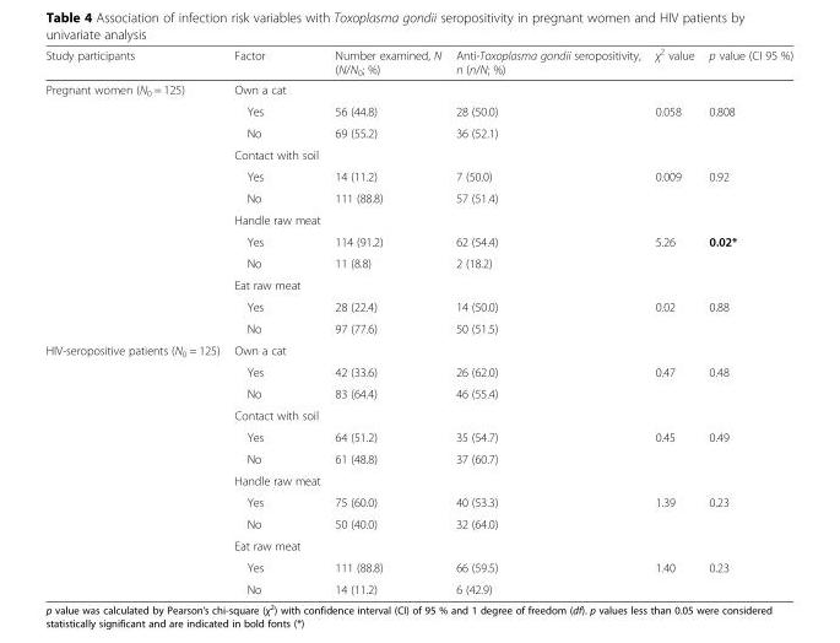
<table><thead><tr><td>Study participants</td><td>Factor</td><td>Number examined, N (N/N<sub>0</sub>; %)</td><td>Anti-Toxoplasma gondii seropositivity, n (n/N; %)</td><td>χ<sup>2</sup> value</td><td>p value (CI 95 %)</td></tr></thead><tbody><tr><td rowspan="12">Pregnant women (N<sub>0</sub> = 125)</td><td>Own a cat</td><td></td><td></td><td></td><td></td></tr><tr><td>Yes</td><td>56 (44.8)</td><td>28 (50.0)</td><td>0.058</td><td>0.808</td></tr><tr><td>No</td><td>69 (55.2)</td><td>36 (52.1)</td><td></td><td></td></tr><tr><td>Contact with soil</td><td></td><td></td><td></td><td></td></tr><tr><td>Yes</td><td>14 (11.2)</td><td>7 (50.0)</td><td>0.009</td><td>0.92</td></tr><tr><td>No</td><td>111 (88.8)</td><td>57 (51.4)</td><td></td><td></td></tr><tr><td>Handle raw meat</td><td></td><td></td><td></td><td></td></tr><tr><td>Yes</td><td>114 (91.2)</td><td>62 (54.4)</td><td>5.26</td><td>0.02*</td></tr><tr><td>No</td><td>11 (8.8)</td><td>2 (18.2)</td><td></td><td></td></tr><tr><td>Eat raw meat</td><td></td><td></td><td></td><td></td></tr><tr><td>Yes</td><td>28 (22.4)</td><td>14 (50.0)</td><td>0.02</td><td>0.88</td></tr><tr><td>No</td><td>97 (77.6)</td><td>50 (51.5)</td><td></td><td></td></tr><tr><td rowspan="12">HIV-seropositive patients (N<sub>0</sub> = 125)</td><td>Own a cat</td><td></td><td></td><td></td><td></td></tr><tr><td>Yes</td><td>42 (33.6)</td><td>26 (62.0)</td><td>0.47</td><td>0.48</td></tr><tr><td>No</td><td>83 (64.4)</td><td>46 (55.4)</td><td></td><td></td></tr><tr><td>Contact with soil</td><td></td><td></td><td></td><td></td></tr><tr><td>Yes</td><td>64 (51.2)</td><td>35 (54.7)</td><td>0.45</td><td>0.49</td></tr><tr><td>No</td><td>61 (48.8)</td><td>37 (60.7)</td><td></td><td></td></tr><tr><td>Handle raw meat</td><td></td><td></td><td></td><td></td></tr><tr><td>Yes</td><td>75 (60.0)</td><td>40 (53.3)</td><td>1.39</td><td>0.23</td></tr><tr><td>No</td><td>50 (40.0)</td><td>32 (64.0)</td><td></td><td></td></tr><tr><td>Eat raw meat</td><td></td><td></td><td></td><td></td></tr><tr><td>Yes</td><td>111 (88.8)</td><td>66 (59.5)</td><td>1.40</td><td>0.23</td></tr><tr><td>No</td><td>14 (11.2)</td><td>6 (42.9)</td><td></td><td></td></tr></tbody></table>